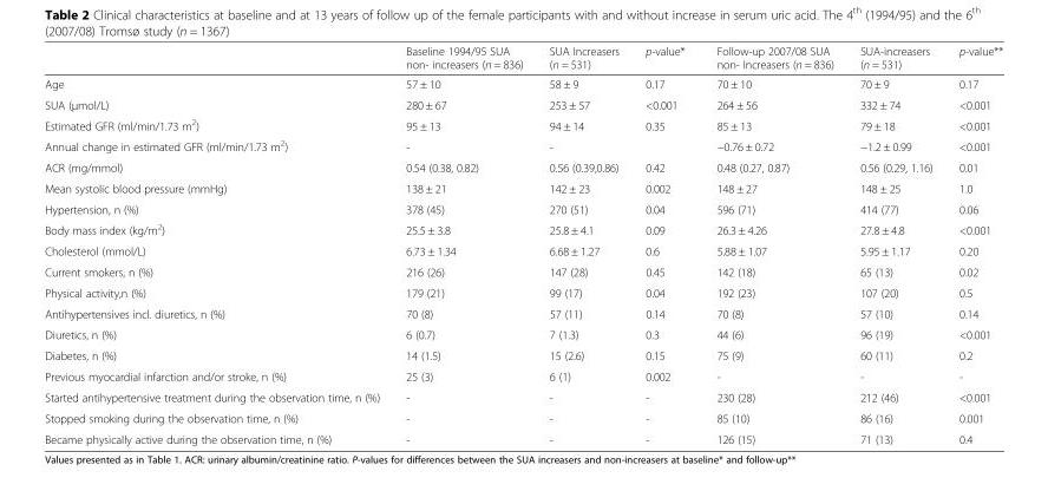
<table><thead><tr><td></td><td>Baseline 1994/95 SUA non- increasers (n = 836)</td><td>SUA Increasers (n = 531)</td><td>p-value*</td><td>Follow-up 2007/08 SUA non- Increasers (n = 836)</td><td>SUA-increasers (n = 531)</td><td>p-value**</td></tr></thead><tbody><tr><td>Age</td><td>57 ± 10</td><td>58 ± 9</td><td>0.17</td><td>70 ± 10</td><td>70 ± 9</td><td>0.17</td></tr><tr><td>SUA (μmol/L)</td><td>280 ± 67</td><td>253 ± 57</td><td>&lt;0.001</td><td>264 ± 56</td><td>332 ± 74</td><td>&lt;0.001</td></tr><tr><td>Estimated GFR (ml/min/1.73 m<sup>2</sup>)</td><td>95 ± 13</td><td>94 ± 14</td><td>0.35</td><td>85 ± 13</td><td>79 ± 18</td><td>&lt;0.001</td></tr><tr><td>Annual change in estimated GFR (ml/min/1.73 m<sup>2</sup>)</td><td>-</td><td>-</td><td></td><td>−0.76 ± 0.72</td><td>−1.2 ± 0.99</td><td>&lt;0.001</td></tr><tr><td>ACR (mg/mmol)</td><td>0.54 (0.38, 0.82)</td><td>0.56 (0.39,0.86)</td><td>0.42</td><td>0.48 (0.27, 0.87)</td><td>0.56 (0.29, 1.16)</td><td>0.01</td></tr><tr><td>Mean systolic blood pressure (mmHg)</td><td>138 ± 21</td><td>142 ± 23</td><td>0.002</td><td>148 ± 27</td><td>148 ± 25</td><td>1.0</td></tr><tr><td>Hypertension, n (%)</td><td>378 (45)</td><td>270 (51)</td><td>0.04</td><td>596 (71)</td><td>414 (77)</td><td>0.06</td></tr><tr><td>Body mass index (kg/m<sup>2</sup>)</td><td>25.5 ± 3.8</td><td>25.8 ± 4.1</td><td>0.09</td><td>26.3 ± 4.26</td><td>27.8 ± 4.8</td><td>&lt;0.001</td></tr><tr><td>Cholesterol (mmol/L)</td><td>6.73 ± 1.34</td><td>6.68 ± 1.27</td><td>0.6</td><td>5.88 ± 1.07</td><td>5.95 ± 1.17</td><td>0.20</td></tr><tr><td>Current smokers, n (%)</td><td>216 (26)</td><td>147 (28)</td><td>0.45</td><td>142 (18)</td><td>65 (13)</td><td>0.02</td></tr><tr><td>Physical activity,n (%)</td><td>179 (21)</td><td>99 (17)</td><td>0.04</td><td>192 (23)</td><td>107 (20)</td><td>0.5</td></tr><tr><td>Antihypertensives incl. diuretics, n (%)</td><td>70 (8)</td><td>57 (11)</td><td>0.14</td><td>70 (8)</td><td>57 (10)</td><td>0.14</td></tr><tr><td>Diuretics, n (%)</td><td>6 (0.7)</td><td>7 (1.3)</td><td>0.3</td><td>44 (6)</td><td>96 (19)</td><td>&lt;0.001</td></tr><tr><td>Diabetes, n (%)</td><td>14 (1.5)</td><td>15 (2.6)</td><td>0.15</td><td>75 (9)</td><td>60 (11)</td><td>0.2</td></tr><tr><td>Previous myocardial infarction and/or stroke, n (%)</td><td>25 (3)</td><td>6 (1)</td><td>0.002</td><td>-</td><td>-</td><td>-</td></tr><tr><td>Started antihypertensive treatment during the observation time, n (%)</td><td>-</td><td>-</td><td>-</td><td>230 (28)</td><td>212 (46)</td><td>&lt;0.001</td></tr><tr><td>Stopped smoking during the observation time, n (%)</td><td>-</td><td>-</td><td>-</td><td>85 (10)</td><td>86 (16)</td><td>0.001</td></tr><tr><td>Became physically active during the observation time, n (%)</td><td>-</td><td>-</td><td>-</td><td>126 (15)</td><td>71 (13)</td><td>0.4</td></tr></tbody></table>